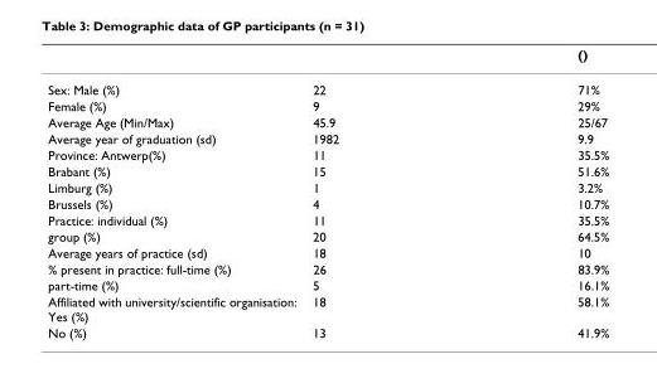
<table><thead><tr><td></td><td></td><td>()</td></tr></thead><tbody><tr><td>Sex: Male (%)</td><td>22</td><td>71%</td></tr><tr><td>Female (%)</td><td>9</td><td>29%</td></tr><tr><td>Average Age (Min/Max)</td><td>45.9</td><td>25/67</td></tr><tr><td>Average year of graduation (sd)</td><td>1982</td><td>9.9</td></tr><tr><td>Province: Antwerp(%)</td><td>11</td><td>35.5%</td></tr><tr><td>Brabant (%)</td><td>15</td><td>51.6%</td></tr><tr><td>Limburg (%)</td><td>1</td><td>3.2%</td></tr><tr><td>Brussels (%)</td><td>4</td><td>10.7%</td></tr><tr><td>Practice: individual (%)</td><td>11</td><td>35.5%</td></tr><tr><td>group (%)</td><td>20</td><td>64.5%</td></tr><tr><td>Average years of practice (sd)</td><td>18</td><td>10</td></tr><tr><td>% present in practice: full-time (%)</td><td>26</td><td>83.9%</td></tr><tr><td>part-time (%)</td><td>5</td><td>16.1%</td></tr><tr><td>Affiliated with university/scientific organisation: Yes (%)</td><td>18</td><td>58.1%</td></tr><tr><td>No (%)</td><td>13</td><td>41.9%</td></tr></tbody></table>